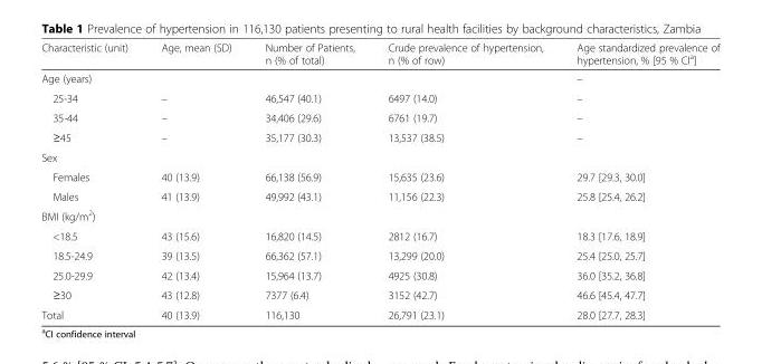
<table><thead><tr><td>Characteristic (unit)</td><td>Age, mean (SD)</td><td>Number of Patients, n (% of total)</td><td>Crude prevalence of hypertension, n (% of row)</td><td>Age standardized prevalence of hypertension, % [95 % CI<sup>a</sup>]</td></tr></thead><tbody><tr><td>Age (years)</td><td></td><td></td><td></td><td>–</td></tr><tr><td>25-34</td><td>–</td><td>46,547 (40.1)</td><td>6497 (14.0)</td><td>–</td></tr><tr><td>35-44</td><td>–</td><td>34,406 (29.6)</td><td>6761 (19.7)</td><td>–</td></tr><tr><td>≥45</td><td>–</td><td>35,177 (30.3)</td><td>13,537 (38.5)</td><td>–</td></tr><tr><td colspan="5">Sex</td></tr><tr><td>Females</td><td>40 (13.9)</td><td>66,138 (56.9)</td><td>15,635 (23.6)</td><td>29.7 [29.3, 30.0]</td></tr><tr><td>Males</td><td>41 (13.9)</td><td>49,992 (43.1)</td><td>11,156 (22.3)</td><td>25.8 [25.4, 26.2]</td></tr><tr><td colspan="5">BMI (kg/m<sup>2</sup>)</td></tr><tr><td>&lt;18.5</td><td>43 (15.6)</td><td>16,820 (14.5)</td><td>2812 (16.7)</td><td>18.3 [17.6, 18.9]</td></tr><tr><td>18.5-24.9</td><td>39 (13.5)</td><td>66,362 (57.1)</td><td>13,299 (20.0)</td><td>25.4 [25.0, 25.7]</td></tr><tr><td>25.0-29.9</td><td>42 (13.4)</td><td>15,964 (13.7)</td><td>4925 (30.8)</td><td>36.0 [35.2, 36.8]</td></tr><tr><td>≥30</td><td>43 (12.8)</td><td>7377 (6.4)</td><td>3152 (42.7)</td><td>46.6 [45.4, 47.7]</td></tr><tr><td>Total</td><td>40 (13.9)</td><td>116,130</td><td>26,791 (23.1)</td><td>28.0 [27.7, 28.3]</td></tr></tbody></table>